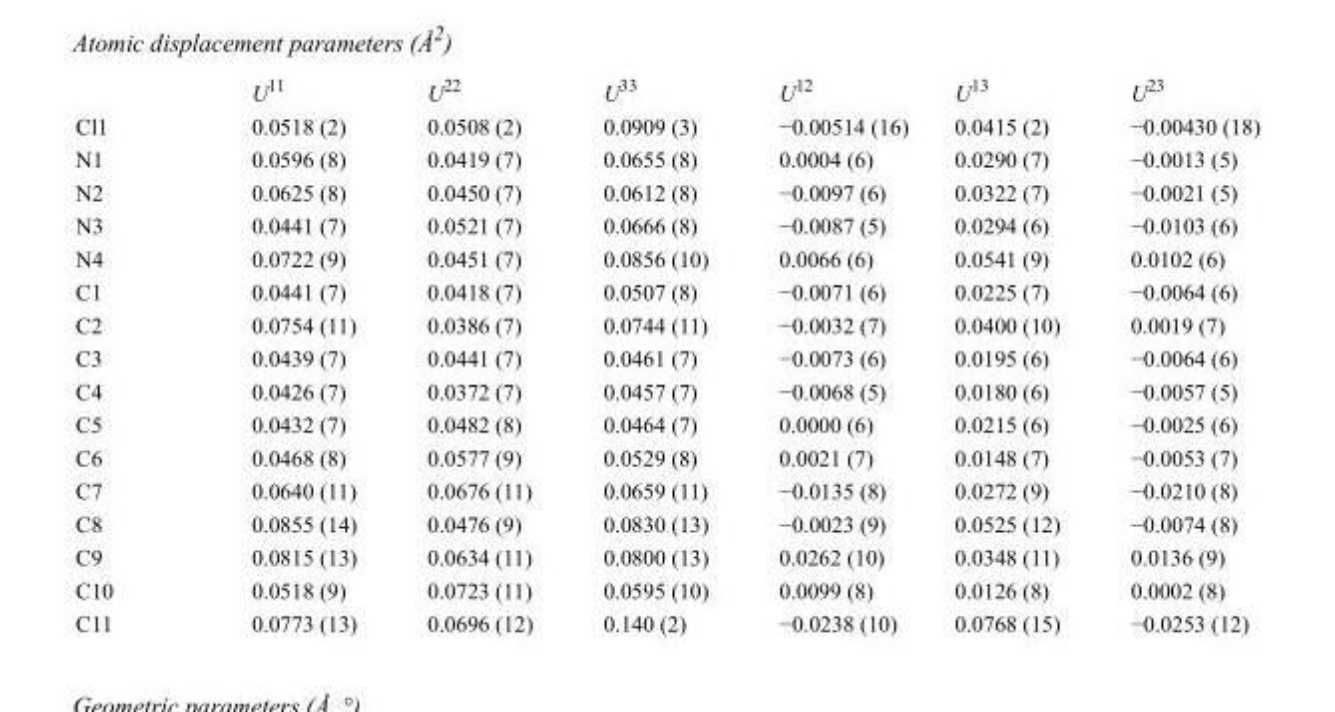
<table><thead><tr><td></td><td>U<sup>11</sup></td><td>U<sup>22</sup></td><td>U<sup>33</sup></td><td>U<sup>12</sup></td><td>U<sup>13</sup></td><td>U<sup>23</sup></td></tr></thead><tbody><tr><td>Cl1</td><td>0.0518 (2)</td><td>0.0508 (2)</td><td>0.0909 (3)</td><td>−0.00514 (16)</td><td>0.0415 (2)</td><td>−0.00430 (18)</td></tr><tr><td>N1</td><td>0.0596 (8)</td><td>0.0419 (7)</td><td>0.0655 (8)</td><td>0.0004 (6)</td><td>0.0290 (7)</td><td>−0.0013 (5)</td></tr><tr><td>N2</td><td>0.0625 (8)</td><td>0.0450 (7)</td><td>0.0612 (8)</td><td>−0.0097 (6)</td><td>0.0322 (7)</td><td>−0.0021 (5)</td></tr><tr><td>N3</td><td>0.0441 (7)</td><td>0.0521 (7)</td><td>0.0666 (8)</td><td>−0.0087 (5)</td><td>0.0294 (6)</td><td>−0.0103 (6)</td></tr><tr><td>N4</td><td>0.0722 (9)</td><td>0.0451 (7)</td><td>0.0856 (10)</td><td>0.0066 (6)</td><td>0.0541 (9)</td><td>0.0102 (6)</td></tr><tr><td>C1</td><td>0.0441 (7)</td><td>0.0418 (7)</td><td>0.0507 (8)</td><td>−0.0071 (6)</td><td>0.0225 (7)</td><td>−0.0064 (6)</td></tr><tr><td>C2</td><td>0.0754 (11)</td><td>0.0386 (7)</td><td>0.0744 (11)</td><td>−0.0032 (7)</td><td>0.0400 (10)</td><td>0.0019 (7)</td></tr><tr><td>C3</td><td>0.0439 (7)</td><td>0.0441 (7)</td><td>0.0461 (7)</td><td>−0.0073 (6)</td><td>0.0195 (6)</td><td>−0.0064 (6)</td></tr><tr><td>C4</td><td>0.0426 (7)</td><td>0.0372 (7)</td><td>0.0457 (7)</td><td>−0.0068 (5)</td><td>0.0180 (6)</td><td>−0.0057 (5)</td></tr><tr><td>C5</td><td>0.0432 (7)</td><td>0.0482 (8)</td><td>0.0464 (7)</td><td>0.0000 (6)</td><td>0.0215 (6)</td><td>−0.0025 (6)</td></tr><tr><td>C6</td><td>0.0468 (8)</td><td>0.0577 (9)</td><td>0.0529 (8)</td><td>0.0021 (7)</td><td>0.0148 (7)</td><td>−0.0053 (7)</td></tr><tr><td>C7</td><td>0.0640 (11)</td><td>0.0676 (11)</td><td>0.0659 (11)</td><td>−0.0135 (8)</td><td>0.0272 (9)</td><td>−0.0210 (8)</td></tr><tr><td>C8</td><td>0.0855 (14)</td><td>0.0476 (9)</td><td>0.0830 (13)</td><td>−0.0023 (9)</td><td>0.0525 (12)</td><td>−0.0074 (8)</td></tr><tr><td>C9</td><td>0.0815 (13)</td><td>0.0634 (11)</td><td>0.0800 (13)</td><td>0.0262 (10)</td><td>0.0348 (11)</td><td>0.0136 (9)</td></tr><tr><td>C10</td><td>0.0518 (9)</td><td>0.0723 (11)</td><td>0.0595 (10)</td><td>0.0099 (8)</td><td>0.0126 (8)</td><td>0.0002 (8)</td></tr><tr><td>C11</td><td>0.0773 (13)</td><td>0.0696 (12)</td><td>0.140 (2)</td><td>−0.0238 (10)</td><td>0.0768 (15)</td><td>−0.0253 (12)</td></tr></tbody></table>